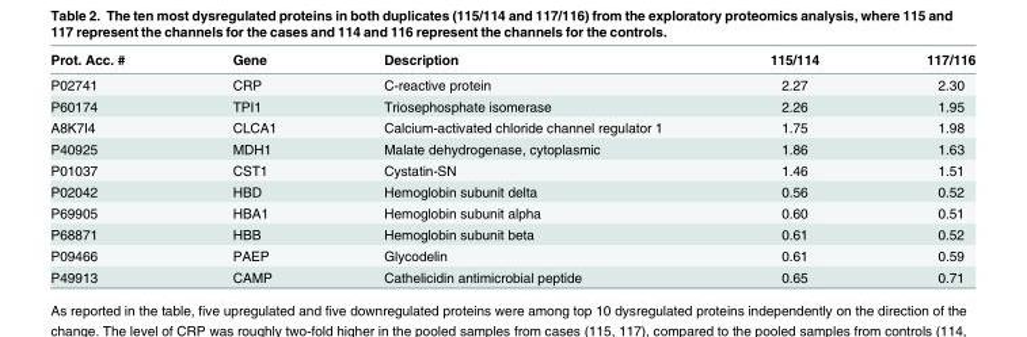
<table><thead><tr><td>Prot. Acc. #</td><td>Gene</td><td>Description</td><td>115/114</td><td>117/116</td></tr></thead><tbody><tr><td>P02741</td><td>CRP</td><td>C-reactive protein</td><td>2.27</td><td>2.30</td></tr><tr><td>P60174</td><td>TPI1</td><td>Triosephosphate isomerase</td><td>2.26</td><td>1.95</td></tr><tr><td>A8K7I4</td><td>CLCA1</td><td>Calcium-activated chloride channel regulator 1</td><td>1.75</td><td>1.98</td></tr><tr><td>P40925</td><td>MDH1</td><td>Malate dehydrogenase, cytoplasmic</td><td>1.86</td><td>1.63</td></tr><tr><td>P01037</td><td>CST1</td><td>Cystatin-SN</td><td>1.46</td><td>1.51</td></tr><tr><td>P02042</td><td>HBD</td><td>Hemoglobin subunit delta</td><td>0.56</td><td>0.52</td></tr><tr><td>P69905</td><td>HBA1</td><td>Hemoglobin subunit alpha</td><td>0.60</td><td>0.51</td></tr><tr><td>P68871</td><td>HBB</td><td>Hemoglobin subunit beta</td><td>0.61</td><td>0.52</td></tr><tr><td>P09466</td><td>PAEP</td><td>Glycodelin</td><td>0.61</td><td>0.59</td></tr><tr><td>P49913</td><td>CAMP</td><td>Cathelicidin antimicrobial peptide</td><td>0.65</td><td>0.71</td></tr></tbody></table>